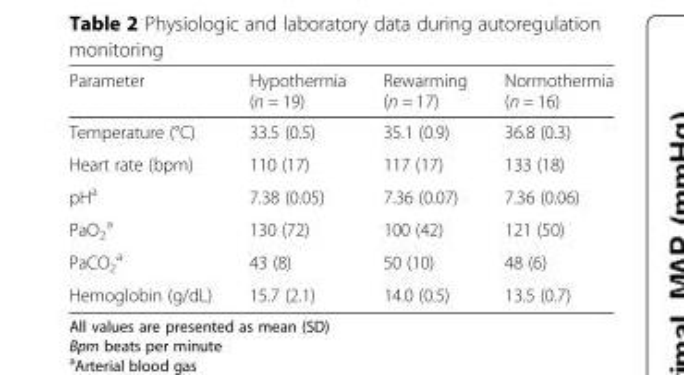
<table><thead><tr><td>Parameter</td><td>Hypothermia (n = 19)</td><td>Rewarming (n = 17)</td><td>Normothermia (n = 16)</td></tr></thead><tbody><tr><td>Temperature (°C)</td><td>33.5 (0.5)</td><td>35.1 (0.9)</td><td>36.8 (0.3)</td></tr><tr><td>Heart rate (bpm)</td><td>110 (17)</td><td>117 (17)</td><td>133 (18)</td></tr><tr><td>pH<sup>a</sup></td><td>7.38 (0.05)</td><td>7.36 (0.07)</td><td>7.36 (0.06)</td></tr><tr><td>PaO<sub>2</sub> <sup>a</sup></td><td>130 (72)</td><td>100 (42)</td><td>121 (50)</td></tr><tr><td>PaCO<sub>2</sub> <sup>a</sup></td><td>43 (8)</td><td>50 (10)</td><td>48 (6)</td></tr><tr><td>Hemoglobin (g/dL)</td><td>15.7 (2.1)</td><td>14.0 (0.5)</td><td>13.5 (0.7)</td></tr></tbody></table>